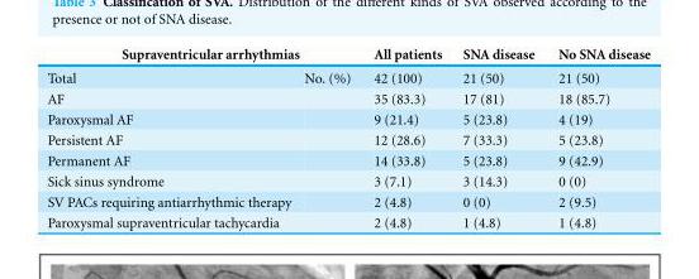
<table><thead><tr><td colspan="2">Supraventricular arrhythmias</td><td rowspan="2">All patients 42 (100)</td><td rowspan="2">SNA disease 21 (50)</td><td rowspan="2">No SNA disease 21 (50)</td></tr><tr><td>Total</td><td>No. (%)</td></tr></thead><tbody><tr><td>AF</td><td></td><td>35 (83.3)</td><td>17 (81)</td><td>18 (85.7)</td></tr><tr><td>Paroxysmal AF</td><td></td><td>9 (21.4)</td><td>5 (23.8)</td><td>4 (19)</td></tr><tr><td>Persistent AF</td><td></td><td>12 (28.6)</td><td>7 (33.3)</td><td>5 (23.8)</td></tr><tr><td>Permanent AF</td><td></td><td>14 (33.8)</td><td>5 (23.8)</td><td>9 (42.9)</td></tr><tr><td>Sick sinus syndrome</td><td></td><td>3 (7.1)</td><td>3 (14.3)</td><td>0 (0)</td></tr><tr><td>SV PACs requiring antiarrhythmic therapy</td><td></td><td>2 (4.8)</td><td>0 (0)</td><td>2 (9.5)</td></tr><tr><td>Paroxysmal supraventricular tachycardia</td><td></td><td>2 (4.8)</td><td>1 (4.8)</td><td>1 (4.8)</td></tr></tbody></table>